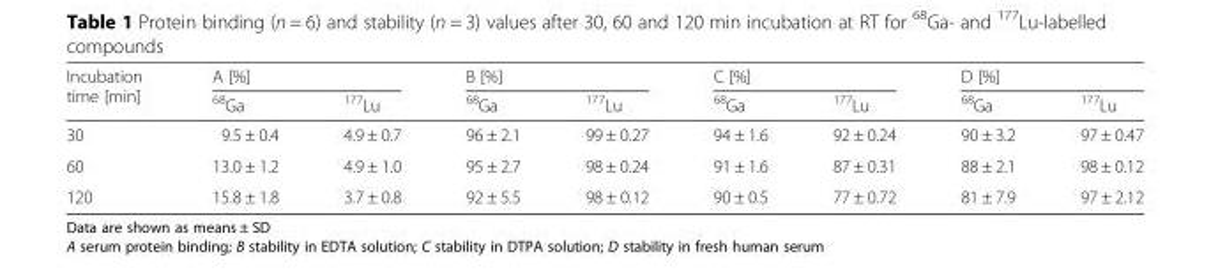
<table><thead><tr><td rowspan="2">Incubation time [min]</td><td colspan="2">A [%]</td><td colspan="2">B [%]</td><td colspan="2">C [%]</td><td colspan="2">D [%]</td></tr><tr><td><sup>68</sup>Ga</td><td><sup>177</sup>Lu</td><td><sup>68</sup>Ga</td><td><sup>177</sup>Lu</td><td><sup>68</sup>Ga</td><td><sup>177</sup>Lu</td><td><sup>68</sup>Ga</td><td><sup>177</sup>Lu</td></tr></thead><tbody><tr><td>30</td><td>9.5 ± 0.4</td><td>4.9 ± 0.7</td><td>96 ± 2.1</td><td>99 ± 0.27</td><td>94 ± 1.6</td><td>92 ± 0.24</td><td>90 ± 3.2</td><td>97 ± 0.47</td></tr><tr><td>60</td><td>13.0 ± 1.2</td><td>4.9 ± 1.0</td><td>95 ± 2.7</td><td>98 ± 0.24</td><td>91 ± 1.6</td><td>87 ± 0.31</td><td>88 ± 2.1</td><td>98 ± 0.12</td></tr><tr><td>120</td><td>15.8 ± 1.8</td><td>3.7 ± 0.8</td><td>92 ± 5.5</td><td>98 ± 0.12</td><td>90 ± 0.5</td><td>77 ± 0.72</td><td>81 ± 7.9</td><td>97 ± 2.12</td></tr></tbody></table>